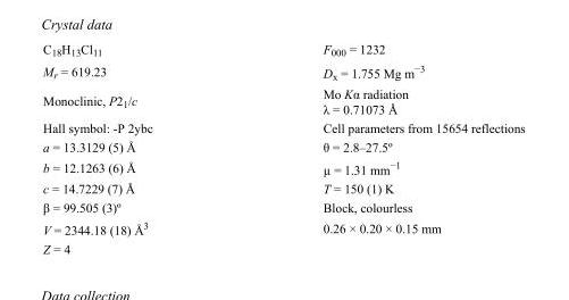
<table><tbody><tr><td>C<sub>18</sub>H<sub>13</sub>Cl<sub>11</sub></td><td>F<sub>000</sub> = 1232</td></tr><tr><td>M<sub>r</sub> = 619.23</td><td>D<sub>x</sub> = 1.755 Mg m<sup>−3</sup></td></tr><tr><td>Monoclinic, P2<sub>1</sub>/c</td><td>Mo Kα radiation λ = 0.71073 Å</td></tr><tr><td>Hall symbol: -P 2ybc</td><td>Cell parameters from 15654 reflections</td></tr><tr><td>a = 13.3129 (5) Å</td><td>θ = 2.8–27.5º</td></tr><tr><td>b = 12.1263 (6) Å</td><td>µ = 1.31 mm<sup>−1</sup></td></tr><tr><td>c = 14.7229 (7) Å</td><td>T = 150 (1) K</td></tr><tr><td>β = 99.505 (3)º</td><td>Block, colourless</td></tr><tr><td>V = 2344.18 (18) Å<sup>3</sup></td><td>0.26 × 0.20 × 0.15 mm</td></tr><tr><td>Z = 4</td><td></td></tr></tbody></table>